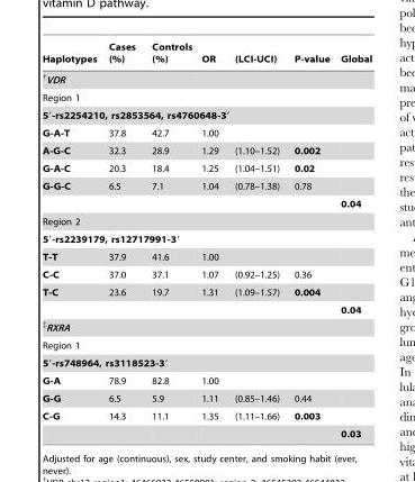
<table><thead><tr><td>Haplotypes</td><td>Cases (%)</td><td>Controls (%)</td><td>OR</td><td>(LCI-UCI)</td><td>P-value</td><td>Global</td></tr></thead><tbody><tr><td colspan="7">†VDR</td></tr><tr><td colspan="7">Region 1</td></tr><tr><td colspan="7">5′-rs2254210, rs2853564, rs4760648-3′</td></tr><tr><td>G-A-T</td><td>37.8</td><td>42.7</td><td>1.00</td><td></td><td></td><td></td></tr><tr><td>A-G-C</td><td>32.3</td><td>28.9</td><td>1.29</td><td>(1.10–1.52)</td><td>0.002</td><td></td></tr><tr><td>G-A-C</td><td>20.3</td><td>18.4</td><td>1.25</td><td>(1.04–1.51)</td><td>0.02</td><td></td></tr><tr><td rowspan="2">G-G-C</td><td>6.5</td><td>7.1</td><td>1.04</td><td>(0.78–1.38)</td><td>0.78</td><td></td></tr><tr><td></td><td></td><td></td><td></td><td></td><td>0.04</td></tr><tr><td colspan="7">Region 2</td></tr><tr><td colspan="7">5′-rs2239179, rs12717991-3′</td></tr><tr><td>T-T</td><td>37.9</td><td>41.6</td><td>1.00</td><td></td><td></td><td></td></tr><tr><td>C-C</td><td>37.0</td><td>37.1</td><td>1.07</td><td>(0.92–1.25)</td><td>0.36</td><td></td></tr><tr><td rowspan="2">T-C</td><td>23.6</td><td>19.7</td><td>1.31</td><td>(1.09–1.57)</td><td>0.004</td><td></td></tr><tr><td></td><td></td><td></td><td></td><td></td><td>0.04</td></tr><tr><td colspan="7">‡RXRA</td></tr><tr><td colspan="7">Region 1</td></tr><tr><td colspan="7">5′-rs748964, rs3118523-3′</td></tr><tr><td>G-A</td><td>78.9</td><td>82.8</td><td>1.00</td><td></td><td></td><td></td></tr><tr><td>G-G</td><td>6.5</td><td>5.9</td><td>1.11</td><td>(0.85–1.46)</td><td>0.44</td><td></td></tr><tr><td rowspan="2">C-G</td><td>14.3</td><td>11.1</td><td>1.35</td><td>(1.11–1.66)</td><td>0.003</td><td></td></tr><tr><td></td><td></td><td></td><td></td><td></td><td>0.03</td></tr></tbody></table>